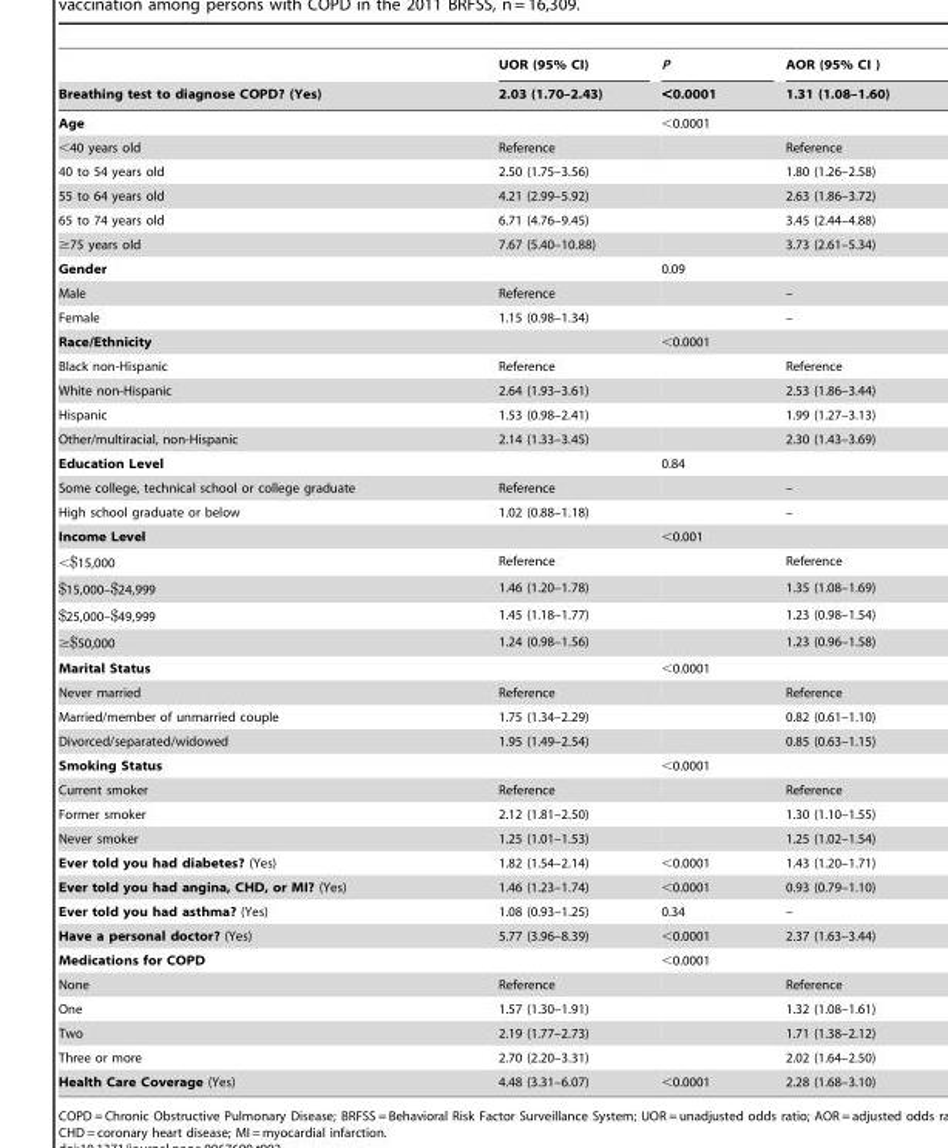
<table><thead><tr><td rowspan="2">Breathing test to diagnose COPD? (Yes)</td><td rowspan="2">UOR (95% CI) 2.03 (1.70–2.43)</td><td rowspan="2">P &lt;0.0001</td><td rowspan="2">AOR (95% CI ) 1.31 (1.08–1.60)</td></tr><tr></tr></thead><tbody><tr><td>Age</td><td></td><td>&lt;0.0001</td><td></td></tr><tr><td>&lt;40 years old</td><td>Reference</td><td></td><td>Reference</td></tr><tr><td>40 to 54 years old</td><td>2.50 (1.75–3.56)</td><td></td><td>1.80 (1.26–2.58)</td></tr><tr><td>55 to 64 years old</td><td>4.21 (2.99–5.92)</td><td></td><td>2.63 (1.86–3.72)</td></tr><tr><td>65 to 74 years old</td><td>6.71 (4.76–9.45)</td><td></td><td>3.45 (2.44–4.88)</td></tr><tr><td>≥75 years old</td><td>7.67 (5.40–10.88)</td><td></td><td>3.73 (2.61–5.34)</td></tr><tr><td>Gender</td><td></td><td>0.09</td><td></td></tr><tr><td>Male</td><td>Reference</td><td></td><td>–</td></tr><tr><td>Female</td><td>1.15 (0.98–1.34)</td><td></td><td>–</td></tr><tr><td>Race/Ethnicity</td><td></td><td>&lt;0.0001</td><td></td></tr><tr><td>Black non-Hispanic</td><td>Reference</td><td></td><td>Reference</td></tr><tr><td>White non-Hispanic</td><td>2.64 (1.93–3.61)</td><td></td><td>2.53 (1.86–3.44)</td></tr><tr><td>Hispanic</td><td>1.53 (0.98–2.41)</td><td></td><td>1.99 (1.27–3.13)</td></tr><tr><td>Other/multiracial, non-Hispanic</td><td>2.14 (1.33–3.45)</td><td></td><td>2.30 (1.43–3.69)</td></tr><tr><td>Education Level</td><td></td><td>0.84</td><td></td></tr><tr><td>Some college, technical school or college graduate</td><td>Reference</td><td></td><td>–</td></tr><tr><td>High school graduate or below</td><td>1.02 (0.88–1.18)</td><td></td><td>–</td></tr><tr><td>Income Level</td><td></td><td>&lt;0.001</td><td></td></tr><tr><td>&lt;$15,000</td><td>Reference</td><td></td><td>Reference</td></tr><tr><td>$15,000–$24,999</td><td>1.46 (1.20–1.78)</td><td></td><td>1.35 (1.08–1.69)</td></tr><tr><td>$25,000–$49,999</td><td>1.45 (1.18–1.77)</td><td></td><td>1.23 (0.98–1.54)</td></tr><tr><td>≥$50,000</td><td>1.24 (0.98–1.56)</td><td></td><td>1.23 (0.96–1.58)</td></tr><tr><td>Marital Status</td><td></td><td>&lt;0.0001</td><td></td></tr><tr><td>Never married</td><td>Reference</td><td></td><td>Reference</td></tr><tr><td>Married/member of unmarried couple</td><td>1.75 (1.34–2.29)</td><td></td><td>0.82 (0.61–1.10)</td></tr><tr><td>Divorced/separated/widowed</td><td>1.95 (1.49–2.54)</td><td></td><td>0.85 (0.63–1.15)</td></tr><tr><td>Smoking Status</td><td></td><td>&lt;0.0001</td><td></td></tr><tr><td>Current smoker</td><td>Reference</td><td></td><td>Reference</td></tr><tr><td>Former smoker</td><td>2.12 (1.81–2.50)</td><td></td><td>1.30 (1.10–1.55)</td></tr><tr><td>Never smoker</td><td>1.25 (1.01–1.53)</td><td></td><td>1.25 (1.02–1.54)</td></tr><tr><td>Ever told you had diabetes? (Yes)</td><td>1.82 (1.54–2.14)</td><td>&lt;0.0001</td><td>1.43 (1.20–1.71)</td></tr><tr><td>Ever told you had angina, CHD, or MI? (Yes)</td><td>1.46 (1.23–1.74)</td><td>&lt;0.0001</td><td>0.93 (0.79–1.10)</td></tr><tr><td>Ever told you had asthma? (Yes)</td><td>1.08 (0.93–1.25)</td><td>0.34</td><td>–</td></tr><tr><td>Have a personal doctor? (Yes)</td><td>5.77 (3.96–8.39)</td><td>&lt;0.0001</td><td>2.37 (1.63–3.44)</td></tr><tr><td>Medications for COPD</td><td></td><td>&lt;0.0001</td><td></td></tr><tr><td>None</td><td>Reference</td><td></td><td>Reference</td></tr><tr><td>One</td><td>1.57 (1.30–1.91)</td><td></td><td>1.32 (1.08–1.61)</td></tr><tr><td>Two</td><td>2.19 (1.77–2.73)</td><td></td><td>1.71 (1.38–2.12)</td></tr><tr><td>Three or more</td><td>2.70 (2.20–3.31)</td><td></td><td>2.02 (1.64–2.50)</td></tr><tr><td>Health Care Coverage (Yes)</td><td>4.48 (3.31–6.07)</td><td>&lt;0.0001</td><td>2.28 (1.68–3.10)</td></tr></tbody></table>